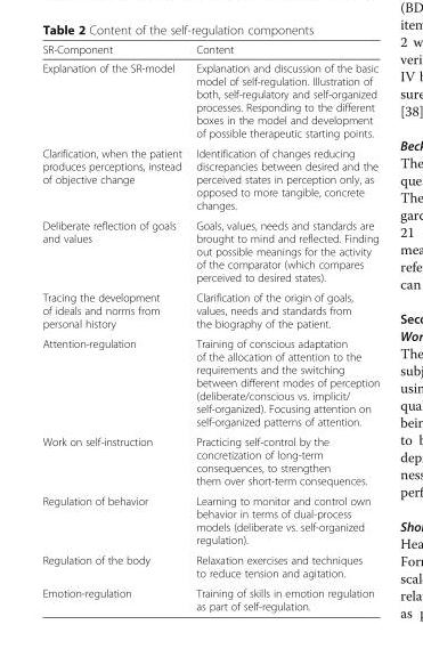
<table><thead><tr><td>SR-Component</td><td>Content</td></tr></thead><tbody><tr><td>Explanation of the SR-model</td><td>Explanation and discussion of the basic model of self-regulation. Illustration of both, self-regulatory and self-organized processes. Responding to the different boxes in the model and development of possible therapeutic starting points.</td></tr><tr><td>Clarification, when the patient produces perceptions, instead of objective change</td><td>Identification of changes reducing discrepancies between desired and the perceived states in perception only, as opposed to more tangible, concrete changes.</td></tr><tr><td>Deliberate reflection of goals and values</td><td>Goals, values, needs and standards are brought to mind and reflected. Finding out possible meanings for the activity of the comparator (which compares perceived to desired states).</td></tr><tr><td>Tracing the development of ideals and norms from personal history</td><td>Clarification of the origin of goals, values, needs and standards from the biography of the patient.</td></tr><tr><td>Attention-regulation</td><td>Training of conscious adaptation of the allocation of attention to the requirements and the switching between different modes of perception (deliberate/conscious vs. implicit/ self-organized). Focusing attention on self-organized patterns of attention.</td></tr><tr><td>Work on self-instruction</td><td>Practicing self-control by the concretization of long-term consequences, to strengthen them over short-term consequences.</td></tr><tr><td>Regulation of behavior</td><td>Learning to monitor and control own behavior in terms of dual-process models (deliberate vs. self-organized regulation).</td></tr><tr><td>Regulation of the body</td><td>Relaxation exercises and techniques to reduce tension and agitation.</td></tr><tr><td>Emotion-regulation</td><td>Training of skills in emotion regulation as part of self-regulation.</td></tr></tbody></table>